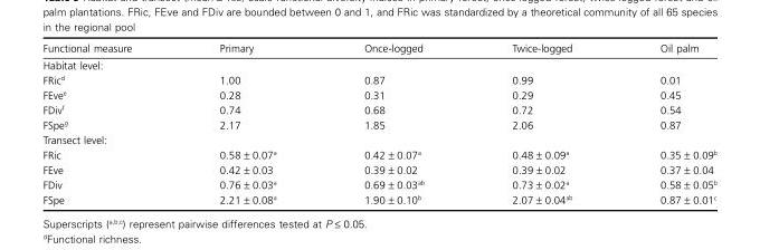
<table><thead><tr><td>Functional measure</td><td>Primary</td><td>Once-logged</td><td>Twice-logged</td><td>Oil palm</td></tr></thead><tbody><tr><td colspan="5">Habitat level:</td></tr><tr><td>FRic<sup>d</sup></td><td>1.00</td><td>0.87</td><td>0.99</td><td>0.01</td></tr><tr><td>FEve<sup>e</sup></td><td>0.28</td><td>0.31</td><td>0.29</td><td>0.45</td></tr><tr><td>FDiv<sup>f</sup></td><td>0.74</td><td>0.68</td><td>0.72</td><td>0.54</td></tr><tr><td>FSpe<sup>g</sup></td><td>2.17</td><td>1.85</td><td>2.06</td><td>0.87</td></tr><tr><td colspan="5">Transect level:</td></tr><tr><td>FRic</td><td>0.58 ± 0.07<sup>a</sup></td><td>0.42 ± 0.07<sup>a</sup></td><td>0.48 ± 0.09<sup>a</sup></td><td>0.35 ± 0.09<sup>b</sup></td></tr><tr><td>FEve</td><td>0.42 ± 0.03</td><td>0.39 ± 0.02</td><td>0.39 ± 0.02</td><td>0.37 ± 0.04</td></tr><tr><td>FDiv</td><td>0.76 ± 0.03<sup>a</sup></td><td>0.69 ± 0.03<sup>ab</sup></td><td>0.73 ± 0.02<sup>a</sup></td><td>0.58 ± 0.05<sup>b</sup></td></tr><tr><td>FSpe</td><td>2.21 ± 0.08<sup>a</sup></td><td>1.90 ± 0.10<sup>b</sup></td><td>2.07 ± 0.04<sup>ab</sup></td><td>0.87 ± 0.01<sup>c</sup></td></tr></tbody></table>